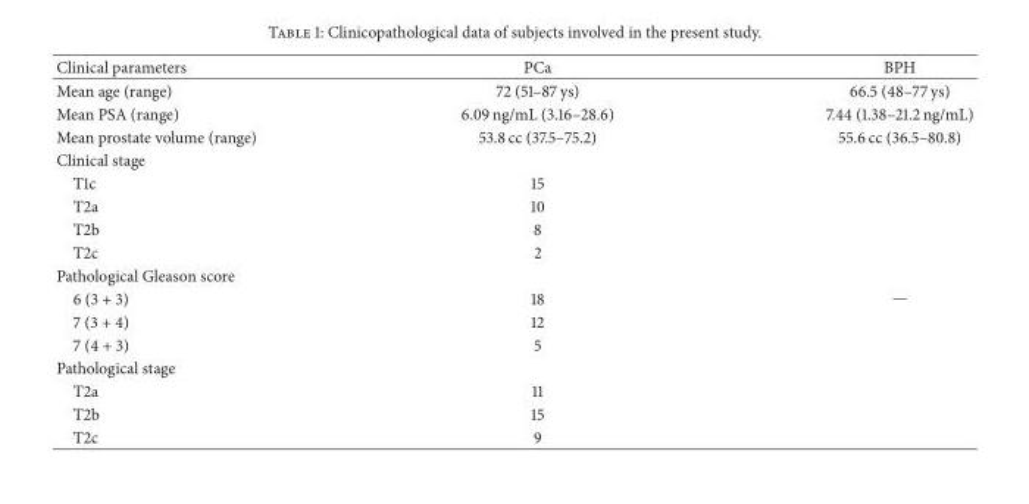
<table><thead><tr><td>Clinical parameters</td><td>PCa</td><td>BPH</td></tr></thead><tbody><tr><td>Mean age (range)</td><td>72 (51–87 ys)</td><td>66.5 (48–77 ys)</td></tr><tr><td>Mean PSA (range)</td><td>6.09 ng/mL (3.16–28.6)</td><td>7.44 (1.38–21.2 ng/mL)</td></tr><tr><td>Mean prostate volume (range)</td><td>53.8 cc (37.5–75.2)</td><td>55.6 cc (36.5–80.8)</td></tr><tr><td colspan="2">Clinical stage</td><td rowspan="13">—</td></tr><tr><td>T1c</td><td>15</td></tr><tr><td>T2a</td><td>10</td></tr><tr><td>T2b</td><td>8</td></tr><tr><td>T2c</td><td>2</td></tr><tr><td colspan="2">Pathological Gleason score</td></tr><tr><td>6 (3 + 3)</td><td>18</td></tr><tr><td>7 (3 + 4)</td><td>12</td></tr><tr><td>7 (4 + 3)</td><td>5</td></tr><tr><td colspan="2">Pathological stage</td></tr><tr><td>T2a</td><td>11</td></tr><tr><td>T2b</td><td>15</td></tr><tr><td>T2c</td><td>9</td></tr></tbody></table>